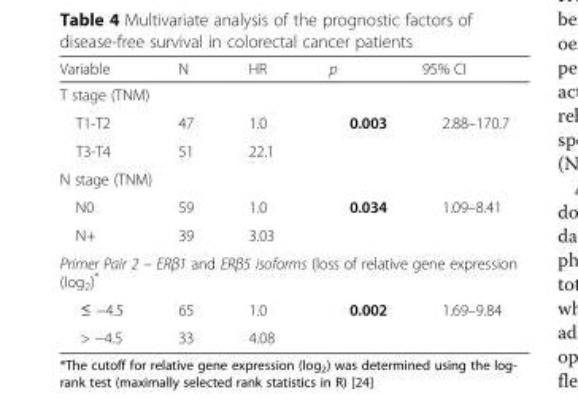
<table><thead><tr><td>Variable</td><td>N</td><td>HR</td><td>p</td><td>95% CI</td></tr></thead><tbody><tr><td colspan="5">T stage (TNM)</td></tr><tr><td>T1-T2</td><td>47</td><td>1.0</td><td rowspan="2">0.003</td><td rowspan="2">2.88–170.7</td></tr><tr><td>T3-T4</td><td>51</td><td>22.1</td></tr><tr><td colspan="5">N stage (TNM)</td></tr><tr><td>N0</td><td>59</td><td>1.0</td><td rowspan="2">0.034</td><td rowspan="2">1.09–8.41</td></tr><tr><td>N+</td><td>39</td><td>3.03</td></tr><tr><td colspan="5">Primer Pair 2 – ERβ1 and ERβ5 isoforms (loss of relative gene expression (log<sub>2</sub>)*</td></tr><tr><td>≤ −4.5</td><td>65</td><td>1.0</td><td rowspan="2">0.002</td><td rowspan="2">1.69–9.84</td></tr><tr><td>&gt; −4.5</td><td>33</td><td>4.08</td></tr></tbody></table>